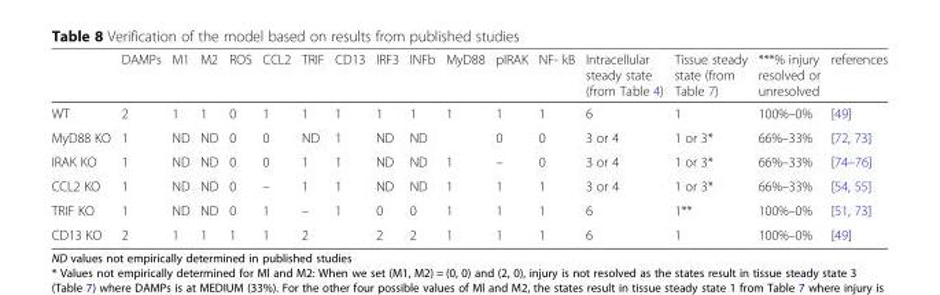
<table><thead><tr><td></td><td>DAMPs</td><td>M1</td><td>M2</td><td>ROS</td><td>CCL2</td><td>TRIF</td><td>CD13</td><td>IRF3</td><td>INFb</td><td>MyD88</td><td>pIRAK</td><td>NF- kB</td><td>Intracellular steady state (from Table 4)</td><td>Tissue steady state (from Table 7)</td><td>***% injury resolved or unresolved</td><td>references</td></tr></thead><tbody><tr><td>WT</td><td>2</td><td>1</td><td>1</td><td>0</td><td>1</td><td>1</td><td>1</td><td>1</td><td>1</td><td>1</td><td>1</td><td>1</td><td>6</td><td>1</td><td>100%–0%</td><td>[49]</td></tr><tr><td>MyD88 KO</td><td>1</td><td>ND</td><td>ND</td><td>0</td><td>0</td><td>ND</td><td>1</td><td>ND</td><td>ND</td><td></td><td>0</td><td>0</td><td>3 or 4</td><td>1 or 3*</td><td>66%–33%</td><td>[72, 73]</td></tr><tr><td>IRAK KO</td><td>1</td><td>ND</td><td>ND</td><td>0</td><td>0</td><td>1</td><td>1</td><td>ND</td><td>ND</td><td>1</td><td>–</td><td>0</td><td>3 or 4</td><td>1 or 3*</td><td>66%–33%</td><td>[74–76]</td></tr><tr><td>CCL2 KO</td><td>1</td><td>ND</td><td>ND</td><td>0</td><td>–</td><td>1</td><td>1</td><td>ND</td><td>ND</td><td>1</td><td>1</td><td>1</td><td>3 or 4</td><td>1 or 3*</td><td>66%–33%</td><td>[54, 55]</td></tr><tr><td>TRIF KO</td><td>1</td><td>ND</td><td>ND</td><td>0</td><td>1</td><td>–</td><td>1</td><td>0</td><td>0</td><td>1</td><td>1</td><td>1</td><td>6</td><td>1**</td><td>100%–0%</td><td>[51, 73]</td></tr><tr><td>CD13 KO</td><td>2</td><td>1</td><td>1</td><td>1</td><td>1</td><td>2</td><td></td><td>2</td><td>2</td><td>1</td><td>1</td><td>1</td><td>6</td><td>1</td><td>100%–0%</td><td>[49]</td></tr></tbody></table>